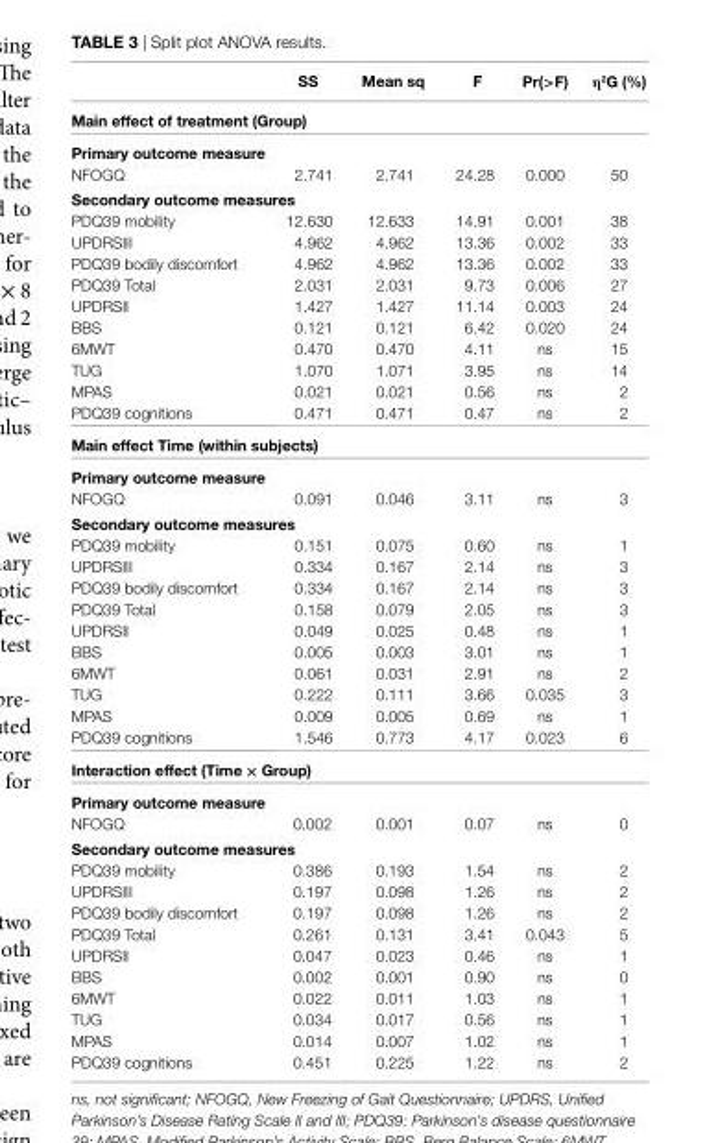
<table><thead><tr><td></td><td>SS</td><td>Mean sq</td><td>F</td><td>Pr(&gt;F)</td><td>η<sup>2</sup>G (%)</td></tr></thead><tbody><tr><td colspan="6">Main effect of treatment (Group)</td></tr><tr><td colspan="6">Primary outcome measure</td></tr><tr><td>NFOGQ</td><td>2.741</td><td>2.741</td><td>24.28</td><td>0.000</td><td>50</td></tr><tr><td colspan="6">Secondary outcome measures</td></tr><tr><td>PDQ39 mobility</td><td>12.630</td><td>12.633</td><td>14.91</td><td>0.001</td><td>38</td></tr><tr><td>UPDRSIII</td><td>4.962</td><td>4.962</td><td>13.36</td><td>0.002</td><td>33</td></tr><tr><td>PDQ39 bodily discomfort</td><td>4.962</td><td>4.962</td><td>13.36</td><td>0.002</td><td>33</td></tr><tr><td>PDQ39 Total</td><td>2.031</td><td>2.031</td><td>9.73</td><td>0.006</td><td>27</td></tr><tr><td>UPDRSII</td><td>1.427</td><td>1.427</td><td>11.14</td><td>0.003</td><td>24</td></tr><tr><td>BBS</td><td>0.121</td><td>0.121</td><td>6.42</td><td>0.020</td><td>24</td></tr><tr><td>6MWT</td><td>0.470</td><td>0.470</td><td>4.11</td><td>ns</td><td>15</td></tr><tr><td>TUG</td><td>1.070</td><td>1.071</td><td>3.95</td><td>ns</td><td>14</td></tr><tr><td>MPAS</td><td>0.021</td><td>0.021</td><td>0.56</td><td>ns</td><td>2</td></tr><tr><td>PDQ39 cognitions</td><td>0.471</td><td>0.471</td><td>0.47</td><td>ns</td><td>2</td></tr><tr><td colspan="6">Main effect Time (within subjects)</td></tr><tr><td colspan="6">Primary outcome measure</td></tr><tr><td>NFOGQ</td><td>0.091</td><td>0.046</td><td>3.11</td><td>ns</td><td>3</td></tr><tr><td colspan="6">Secondary outcome measures</td></tr><tr><td>PDQ39 mobility</td><td>0.151</td><td>0.075</td><td>0.60</td><td>ns</td><td>1</td></tr><tr><td>UPDRSIII</td><td>0.334</td><td>0.167</td><td>2.14</td><td>ns</td><td>3</td></tr><tr><td>PDQ39 bodily discomfort</td><td>0.334</td><td>0.167</td><td>2.14</td><td>ns</td><td>3</td></tr><tr><td>PDQ39 Total</td><td>0.158</td><td>0.079</td><td>2.05</td><td>ns</td><td>3</td></tr><tr><td>UPDRSII</td><td>0.049</td><td>0.025</td><td>0.48</td><td>ns</td><td>1</td></tr><tr><td>BBS</td><td>0.005</td><td>0.003</td><td>3.01</td><td>ns</td><td>1</td></tr><tr><td>6MWT</td><td>0.061</td><td>0.031</td><td>2.91</td><td>ns</td><td>2</td></tr><tr><td>TUG</td><td>0.222</td><td>0.111</td><td>3.66</td><td>0.035</td><td>3</td></tr><tr><td>MPAS</td><td>0.009</td><td>0.005</td><td>0.69</td><td>ns</td><td>1</td></tr><tr><td>PDQ39 cognitions</td><td>1.546</td><td>0.773</td><td>4.17</td><td>0.023</td><td>6</td></tr><tr><td colspan="6">interaction effect (Time × Group)</td></tr><tr><td colspan="6">Primary outcome measure</td></tr><tr><td>NFOGQ</td><td>0.002</td><td>0.001</td><td>0.07</td><td>ns</td><td>0</td></tr><tr><td colspan="6">Secondary outcome measures</td></tr><tr><td>PDQ39 mobility</td><td>0.386</td><td>0.193</td><td>1.54</td><td>ns</td><td>2</td></tr><tr><td>UPDRSIII</td><td>0.197</td><td>0.098</td><td>1.26</td><td>ns</td><td>2</td></tr><tr><td>PDQ39 bodily discomfort</td><td>0.197</td><td>0.098</td><td>1.26</td><td>ns</td><td>2</td></tr><tr><td>PDQ39 Total</td><td>0.261</td><td>0.131</td><td>3.41</td><td>0.043</td><td>5</td></tr><tr><td>UPDRSII</td><td>0.047</td><td>0.023</td><td>0.46</td><td>ns</td><td>1</td></tr><tr><td>BBS</td><td>0.002</td><td>0.001</td><td>0.90</td><td>ns</td><td>0</td></tr><tr><td>6MWT</td><td>0.022</td><td>0.011</td><td>1.03</td><td>ns</td><td>1</td></tr><tr><td>TUG</td><td>0.034</td><td>0.017</td><td>0.56</td><td>ns</td><td>1</td></tr><tr><td>MPAS</td><td>0.014</td><td>0.007</td><td>1.02</td><td>ns</td><td>1</td></tr><tr><td>PDQ39 cognitions</td><td>0.451</td><td>0.225</td><td>1.22</td><td>ns</td><td>2</td></tr></tbody></table>